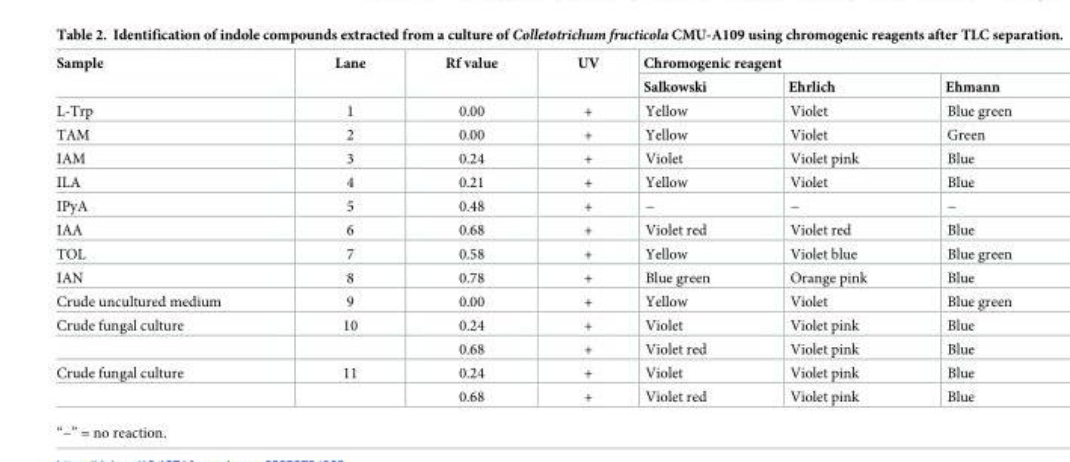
<table><thead><tr><td rowspan="2">Sample</td><td rowspan="2">Lane</td><td rowspan="2">Rf value</td><td rowspan="2">UV</td><td colspan="3">Chromogenic reagent</td></tr><tr><td>Salkowski</td><td>Ehrlich</td><td>Ehmann</td></tr></thead><tbody><tr><td>L-Trp</td><td>1</td><td>0.00</td><td>+</td><td>Yellow</td><td>Violet</td><td>Blue green</td></tr><tr><td>TAM</td><td>2</td><td>0.00</td><td>+</td><td>Yellow</td><td>Violet</td><td>Green</td></tr><tr><td>IAM</td><td>3</td><td>0.24</td><td>+</td><td>Violet</td><td>Violet pink</td><td>Blue</td></tr><tr><td>ILA</td><td>4</td><td>0.21</td><td>+</td><td>Yellow</td><td>Violet</td><td>Blue</td></tr><tr><td>IPyA</td><td>5</td><td>0.48</td><td>+</td><td>−</td><td>−</td><td>−</td></tr><tr><td>IAA</td><td>6</td><td>0.68</td><td>+</td><td>Violet red</td><td>Violet red</td><td>Blue</td></tr><tr><td>TOL</td><td>7</td><td>0.58</td><td>+</td><td>Yellow</td><td>Violet blue</td><td>Blue green</td></tr><tr><td>IAN</td><td>8</td><td>0.78</td><td>+</td><td>Blue green</td><td>Orange pink</td><td>Blue</td></tr><tr><td>Crude uncultured medium</td><td>9</td><td>0.00</td><td>+</td><td>Yellow</td><td>Violet</td><td>Blue green</td></tr><tr><td rowspan="2">Crude fungal culture</td><td>10</td><td>0.24</td><td>+</td><td>Violet</td><td>Violet pink</td><td>Blue</td></tr><tr><td></td><td>0.68</td><td>+</td><td>Violet red</td><td>Violet pink</td><td>Blue</td></tr><tr><td rowspan="2">Crude fungal culture</td><td>11</td><td>0.24</td><td>+</td><td>Violet</td><td>Violet pink</td><td>Blue</td></tr><tr><td></td><td>0.68</td><td>+</td><td>Violet red</td><td>Violet pink</td><td>Blue</td></tr></tbody></table>